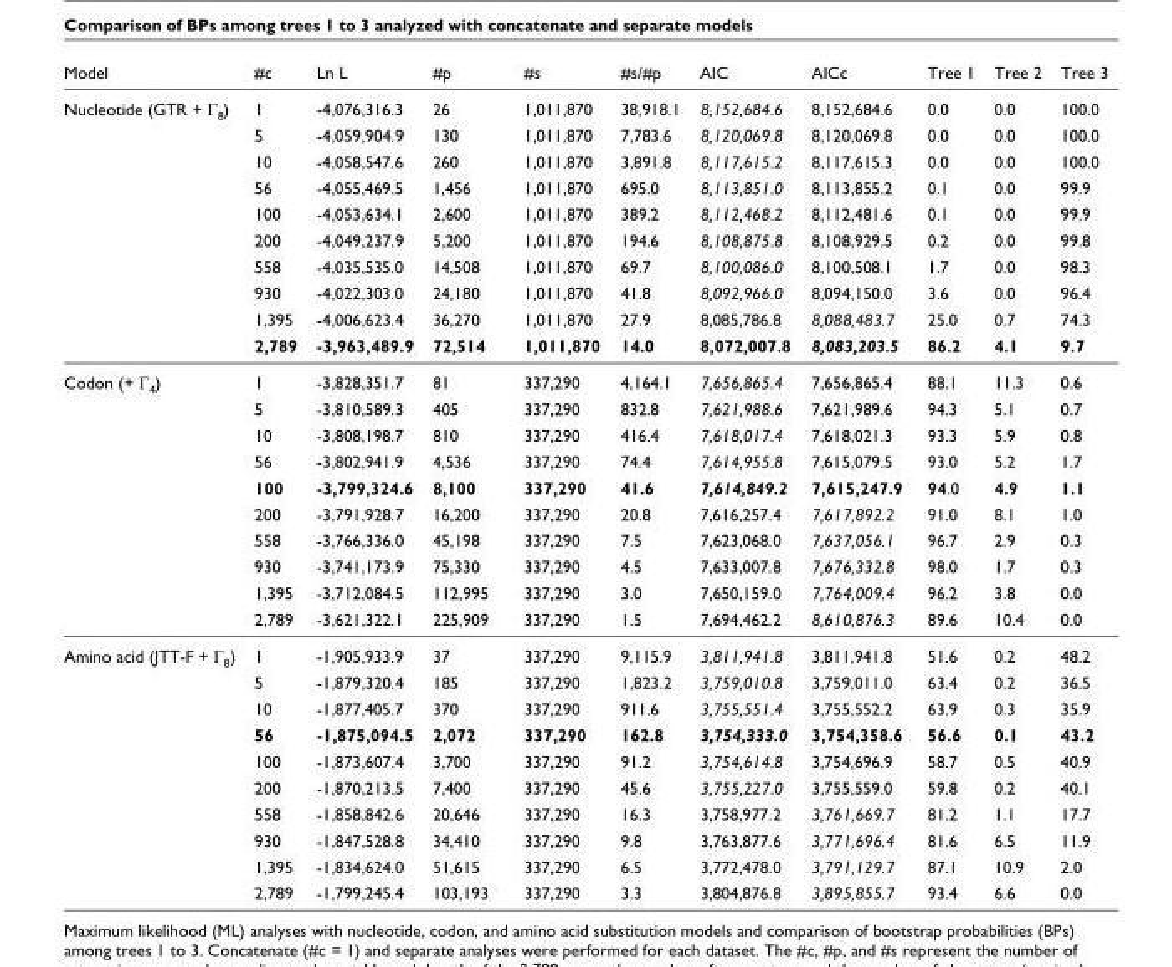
<table><thead><tr><td>Model</td><td>#c</td><td>Ln L</td><td>#p</td><td>#s</td><td>#s/#p</td><td>AIC</td><td>AICc</td><td>Tree 1</td><td>Tree 2</td><td>Tree 3</td></tr></thead><tbody><tr><td rowspan="10">Nucleotide (GTR + Γ<sub>8</sub>)</td><td>1</td><td>-4,076,316.3</td><td>26</td><td>1,011,870</td><td>38,918.1</td><td>8,152,684.6</td><td>8,152,684.6</td><td>0.0</td><td>0.0</td><td>100.0</td></tr><tr><td>5</td><td>-4,059,904.9</td><td>130</td><td>1,011,870</td><td>7,783.6</td><td>8,120,069.8</td><td>8,120,069.8</td><td>0.0</td><td>0.0</td><td>100.0</td></tr><tr><td>10</td><td>-4,058,547.6</td><td>260</td><td>1,011,870</td><td>3,891.8</td><td>8,117,615.2</td><td>8,117,615.3</td><td>0.0</td><td>0.0</td><td>100.0</td></tr><tr><td>56</td><td>-4,055,469.5</td><td>1,456</td><td>1,011,870</td><td>695.0</td><td>8,113,851.0</td><td>8,113,855.2</td><td>0.1</td><td>0.0</td><td>99.9</td></tr><tr><td>100</td><td>-4,053,634.1</td><td>2,600</td><td>1,011,870</td><td>389.2</td><td>8,112,468.2</td><td>8,112,481.6</td><td>0.1</td><td>0.0</td><td>99.9</td></tr><tr><td>200</td><td>-4,049,237.9</td><td>5,200</td><td>1,011,870</td><td>194.6</td><td>8,108,875.8</td><td>8,108,929.5</td><td>0.2</td><td>0.0</td><td>99.8</td></tr><tr><td>558</td><td>-4,035,535.0</td><td>14,508</td><td>1,011,870</td><td>69.7</td><td>8,100,086.0</td><td>8,100,508.1</td><td>1.7</td><td>0.0</td><td>98.3</td></tr><tr><td>930</td><td>-4,022,303.0</td><td>24,180</td><td>1,011,870</td><td>41.8</td><td>8,092,966.0</td><td>8,094,150.0</td><td>3.6</td><td>0.0</td><td>96.4</td></tr><tr><td>1,395</td><td>-4,006,623.4</td><td>36,270</td><td>1,011,870</td><td>27.9</td><td>8,085,786.8</td><td>8,088,483.7</td><td>25.0</td><td>0.7</td><td>74.3</td></tr><tr><td>2,789</td><td>-3,963,489.9</td><td>72,514</td><td>1,011,870</td><td>14.0</td><td>8,072,007.8</td><td>8,083,203.5</td><td>86.2</td><td>4.1</td><td>9.7</td></tr><tr><td rowspan="10">Codon (+ Γ<sub>4</sub>)</td><td>1</td><td>-3,828,351.7</td><td>81</td><td>337,290</td><td>4,164.1</td><td>7,656,865.4</td><td>7,656,865.4</td><td>88.1</td><td>11.3</td><td>0.6</td></tr><tr><td>5</td><td>-3,810,589.3</td><td>405</td><td>337,290</td><td>832.8</td><td>7,621,988.6</td><td>7,621,989.6</td><td>94.3</td><td>5.1</td><td>0.7</td></tr><tr><td>10</td><td>-3,808,198.7</td><td>810</td><td>337,290</td><td>416.4</td><td>7,618,017.4</td><td>7,618,021.3</td><td>93.3</td><td>5.9</td><td>0.8</td></tr><tr><td>56</td><td>-3,802,941.9</td><td>4,536</td><td>337,290</td><td>74.4</td><td>7,614,955.8</td><td>7,615,079.5</td><td>93.0</td><td>5.2</td><td>1.7</td></tr><tr><td>100</td><td>-3,799,324.6</td><td>8,100</td><td>337,290</td><td>41.6</td><td>7,614,849.2</td><td>7,615,247.9</td><td>94.0</td><td>4.9</td><td>1.1</td></tr><tr><td>200</td><td>-3,791,928.7</td><td>16,200</td><td>337,290</td><td>20.8</td><td>7,616,257.4</td><td>7,617,892.2</td><td>91.0</td><td>8.1</td><td>1.0</td></tr><tr><td>558</td><td>-3,766,336.0</td><td>45,198</td><td>337,290</td><td>7.5</td><td>7,623,068.0</td><td>7,637,056.1</td><td>96.7</td><td>2.9</td><td>0.3</td></tr><tr><td>930</td><td>-3,741,173.9</td><td>75,330</td><td>337,290</td><td>4.5</td><td>7,633,007.8</td><td>7,676,332.8</td><td>98.0</td><td>1.7</td><td>0.3</td></tr><tr><td>1,395</td><td>-3,712,084.5</td><td>112,995</td><td>337,290</td><td>3.0</td><td>7,650,159.0</td><td>7,764,009.4</td><td>96.2</td><td>3.8</td><td>0.0</td></tr><tr><td>2,789</td><td>-3,621,322.1</td><td>225,909</td><td>337,290</td><td>1.5</td><td>7,694,462.2</td><td>8,610,876.3</td><td>89.6</td><td>10.4</td><td>0.0</td></tr><tr><td rowspan="10">Amino acid (JTT-F + Γ<sub>8</sub>)</td><td>1</td><td>-1,905,933.9</td><td>37</td><td>337,290</td><td>9,115.9</td><td>3,811,941.8</td><td>3,811,941.8</td><td>51.6</td><td>0.2</td><td>48.2</td></tr><tr><td>5</td><td>-1,879,320.4</td><td>185</td><td>337,290</td><td>1,823.2</td><td>3,759,010.8</td><td>3,759,011.0</td><td>63.4</td><td>0.2</td><td>36.5</td></tr><tr><td>10</td><td>-1,877,405.7</td><td>370</td><td>337,290</td><td>911.6</td><td>3,755,551.4</td><td>3,755,552.2</td><td>63.9</td><td>0.3</td><td>35.9</td></tr><tr><td>56</td><td>-1,875,094.5</td><td>2,072</td><td>337,290</td><td>162.8</td><td>3,754,333.0</td><td>3,754,358.6</td><td>56.6</td><td>0.1</td><td>43.2</td></tr><tr><td>100</td><td>-1,873,607.4</td><td>3,700</td><td>337,290</td><td>91.2</td><td>3,754,614.8</td><td>3,754,696.9</td><td>58.7</td><td>0.5</td><td>40.9</td></tr><tr><td>200</td><td>-1,870,213.5</td><td>7,400</td><td>337,290</td><td>45.6</td><td>3,755,227.0</td><td>3,755,559.0</td><td>59.8</td><td>0.2</td><td>40.1</td></tr><tr><td>558</td><td>-1,858,842.6</td><td>20,646</td><td>337,290</td><td>16.3</td><td>3,758,977.2</td><td>3,761,669.7</td><td>81.2</td><td>1.1</td><td>17.7</td></tr><tr><td>930</td><td>-1,847,528.8</td><td>34,410</td><td>337,290</td><td>9.8</td><td>3,763,877.6</td><td>3,771,696.4</td><td>81.6</td><td>6.5</td><td>11.9</td></tr><tr><td>1,395</td><td>-1,834,624.0</td><td>51,615</td><td>337,290</td><td>6.5</td><td>3,772,478.0</td><td>3,791,129.7</td><td>87.1</td><td>10.9</td><td>2.0</td></tr><tr><td>2,789</td><td>-1,799,245.4</td><td>103,193</td><td>337,290</td><td>3.3</td><td>3,804,876.8</td><td>3,895,855.7</td><td>93.4</td><td>6.6</td><td>0.0</td></tr></tbody></table>